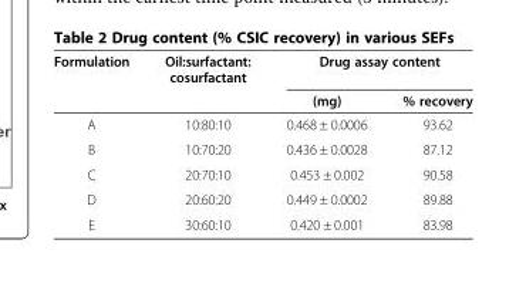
<table><thead><tr><td rowspan="2">Formulation</td><td rowspan="2">Oil:surfactant: cosurfactant</td><td colspan="2">Drug assay content</td></tr><tr><td>(mg)</td><td>% recovery</td></tr></thead><tbody><tr><td>A</td><td>10:80:10</td><td>0.468 ± 0.0006</td><td>93.62</td></tr><tr><td>B</td><td>10:70:20</td><td>0.436 ± 0.0028</td><td>87.12</td></tr><tr><td>C</td><td>20:70:10</td><td>0.453 ± 0.002</td><td>90.58</td></tr><tr><td>D</td><td>20:60:20</td><td>0.449 ± 0.0002</td><td>89.88</td></tr><tr><td>E</td><td>30:60:10</td><td>0.420 ± 0.001</td><td>83.98</td></tr></tbody></table>